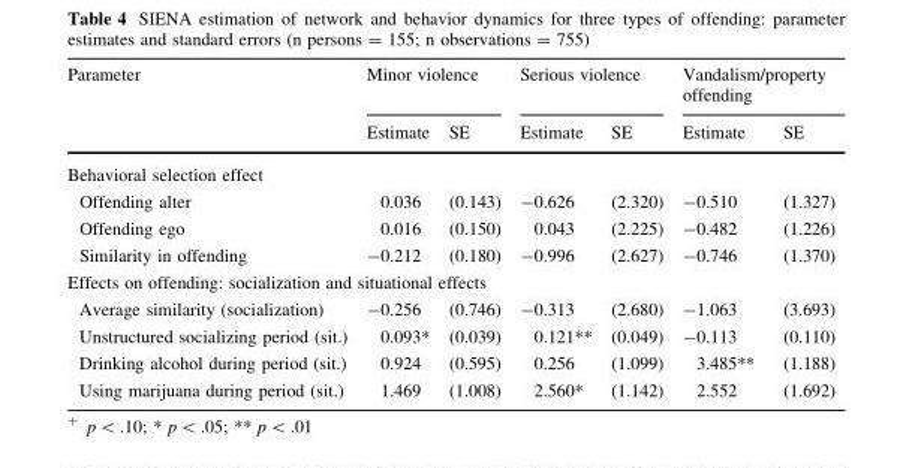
<table><thead><tr><td rowspan="2">Parameter</td><td colspan="2">Minor violence</td><td colspan="2">Serious violence</td><td colspan="2">Vandalism/property offending</td></tr><tr><td>Estimate</td><td>SE</td><td>Estimate</td><td>SE</td><td>Estimate</td><td>SE</td></tr></thead><tbody><tr><td colspan="7">Behavioral selection effect</td></tr><tr><td>Offending alter</td><td>0.036</td><td>(0.143)</td><td>-0.626</td><td>(2.320)</td><td>-0.510</td><td>(1.327)</td></tr><tr><td>Offending ego</td><td>0.016</td><td>(0.150)</td><td>0.043</td><td>(2.225)</td><td>-0.482</td><td>(1.226)</td></tr><tr><td>Similarity in offending</td><td>-0.212</td><td>(0.180)</td><td>-0.996</td><td>(2.627)</td><td>-0.746</td><td>(1.370)</td></tr><tr><td colspan="7">Effects on offending: socialization and situational effects</td></tr><tr><td>Average similarity (socialization)</td><td>-0.256</td><td>(0.746)</td><td>-0.313</td><td>(2.680)</td><td>-1.063</td><td>(3.693)</td></tr><tr><td>Unstructured socializing period (sit.)</td><td>0.093*</td><td>(0.039)</td><td>0.121**</td><td>(0.049)</td><td>-0.113</td><td>(0.110)</td></tr><tr><td>Drinking alcohol during period (sit.)</td><td>0.924</td><td>(0.595)</td><td>0.256</td><td>(1.099)</td><td>3.485**</td><td>(1.188)</td></tr><tr><td>Using marijuana during period (sit.)</td><td>1.469</td><td>(1.008)</td><td>2.560*</td><td>(1.142)</td><td>2.552</td><td>(1.692)</td></tr></tbody></table>